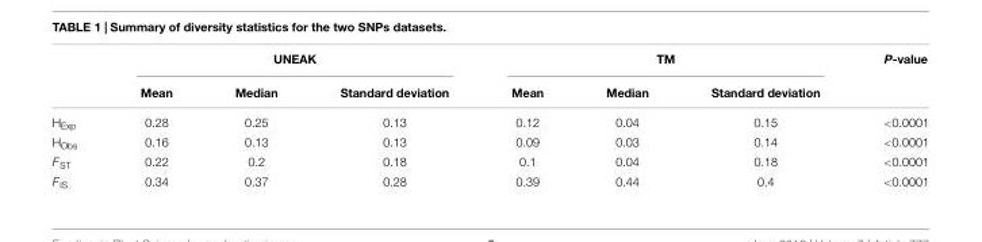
<table><thead><tr><td rowspan="2"></td><td colspan="3">UNEAK</td><td colspan="3">TM</td><td rowspan="2">P-value</td></tr><tr><td>Mean</td><td>Median</td><td>Standard deviation</td><td>Mean</td><td>Median</td><td>Standard deviation</td></tr></thead><tbody><tr><td>H<sub>Exp</sub></td><td>0.28</td><td>0.25</td><td>0.13</td><td>0.12</td><td>0.04</td><td>0.15</td><td>&lt;0.0001</td></tr><tr><td>H<sub>Obs</sub></td><td>0.16</td><td>0.13</td><td>0.13</td><td>0.09</td><td>0.03</td><td>0.14</td><td>&lt;0.0001</td></tr><tr><td>F<sub>ST</sub></td><td>0.22</td><td>0.2</td><td>0.18</td><td>0.1</td><td>0.04</td><td>0.18</td><td>&lt;0.0001</td></tr><tr><td>F<sub>IS</sub></td><td>0.34</td><td>0.37</td><td>0.28</td><td>0.39</td><td>0.44</td><td>0.4</td><td>&lt;0.0001</td></tr></tbody></table>